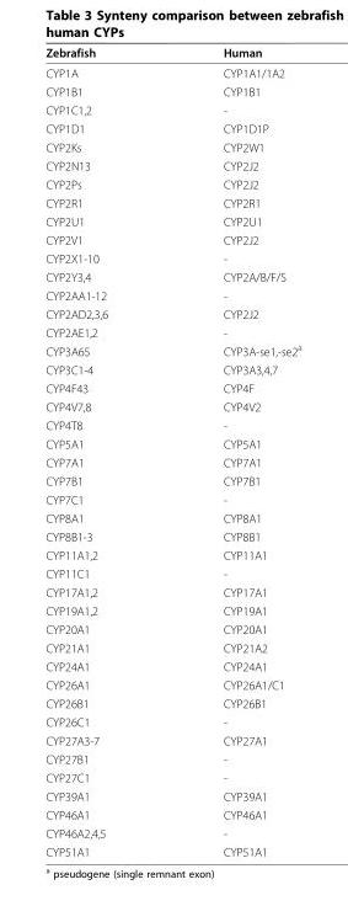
<table><thead><tr><td>Zebrafish</td><td>Human</td></tr></thead><tbody><tr><td>CYP1A</td><td>CYP1A1/1A2</td></tr><tr><td>CYP1B1</td><td>CYP1B1</td></tr><tr><td>CYP1C1,2</td><td>-</td></tr><tr><td>CYP1D1</td><td>CYP1D1P</td></tr><tr><td>CYP2Ks</td><td>CYP2W1</td></tr><tr><td>CYP2N13</td><td>CYP2J2</td></tr><tr><td>CYP2Ps</td><td>CYP2J2</td></tr><tr><td>CYP2R1</td><td>CYP2R1</td></tr><tr><td>CYP2U1</td><td>CYP2U1</td></tr><tr><td>CYP2V1</td><td>CYP2J2</td></tr><tr><td>CYP2X1-10</td><td>-</td></tr><tr><td>CYP2Y3,4</td><td>CYP2A/B/F/S</td></tr><tr><td>CYP2AA1-12</td><td>-</td></tr><tr><td>CYP2AD2,3,6</td><td>CYP2J2</td></tr><tr><td>CYP2AE1,2</td><td>-</td></tr><tr><td>CYP3A65</td><td>CYP3A-se1,-se2<sup>a</sup></td></tr><tr><td>CYP3C1-4</td><td>CYP3A3,4,7</td></tr><tr><td>CYP4F43</td><td>CYP4F</td></tr><tr><td>CYP4V7,8</td><td>CYP4V2</td></tr><tr><td>CYP4T8</td><td>-</td></tr><tr><td>CYP5A1</td><td>CYP5A1</td></tr><tr><td>CYP7A1</td><td>CYP7A1</td></tr><tr><td>CYP7B1</td><td>CYP7B1</td></tr><tr><td>CYP7C1</td><td>-</td></tr><tr><td>CYP8A1</td><td>CYP8A1</td></tr><tr><td>CYP8B1-3</td><td>CYP8B1</td></tr><tr><td>CYP11A1,2</td><td>CYP11A1</td></tr><tr><td>CYP11C1</td><td>-</td></tr><tr><td>CYP17A1,2</td><td>CYP17A1</td></tr><tr><td>CYP19A1,2</td><td>CYP19A1</td></tr><tr><td>CYP20A1</td><td>CYP20A1</td></tr><tr><td>CYP21A1</td><td>CYP21A2</td></tr><tr><td>CYP24A1</td><td>CYP24A1</td></tr><tr><td>CYP26A1</td><td>CYP26A1/C1</td></tr><tr><td>CYP26B1</td><td>CYP26B1</td></tr><tr><td>CYP26C1</td><td>-</td></tr><tr><td>CYP27A3-7</td><td>CYP27A1</td></tr><tr><td>CYP27B1</td><td>-</td></tr><tr><td>CYP27C1</td><td>-</td></tr><tr><td>CYP39A1</td><td>CYP39A1</td></tr><tr><td>CYP46A1</td><td>CYP46A1</td></tr><tr><td>CYP46A2,4,5</td><td>-</td></tr><tr><td>CYP51A1</td><td>CYP51A1</td></tr></tbody></table>